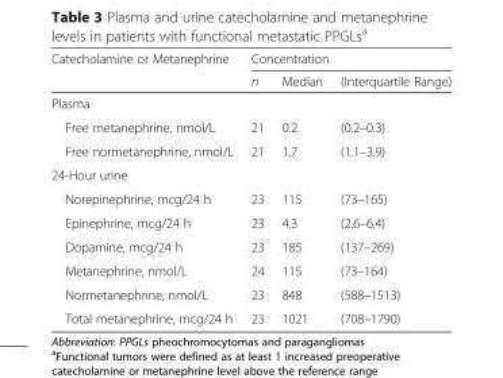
<table><thead><tr><td rowspan="2">Catecholamine or Metanephrine</td><td colspan="3">Concentration</td></tr><tr><td>n</td><td>Median</td><td>(Interquartile Range)</td></tr></thead><tbody><tr><td colspan="4">Plasma</td></tr><tr><td>Free metanephrine, nmol/L</td><td>21</td><td>0.2</td><td>(0.2–0.3)</td></tr><tr><td>Free normetanephrine, nmol/L</td><td>21</td><td>1.7</td><td>(1.1–3.9)</td></tr><tr><td colspan="4">24-Hour urine</td></tr><tr><td>Norepinephrine, mcg/24 h</td><td>23</td><td>115</td><td>(73–165)</td></tr><tr><td>Epinephrine, mcg/24 h</td><td>23</td><td>4.3</td><td>(2.6–6.4)</td></tr><tr><td>Dopamine, mcg/24 h</td><td>23</td><td>185</td><td>(137–269)</td></tr><tr><td>Metanephrine, nmol/L</td><td>24</td><td>115</td><td>(73–164)</td></tr><tr><td>Normetanephrine, nmol/L</td><td>23</td><td>848</td><td>(588–1513)</td></tr><tr><td>Total metanephrine, mcg/24 h</td><td>23</td><td>1021</td><td>(708–1790)</td></tr></tbody></table>